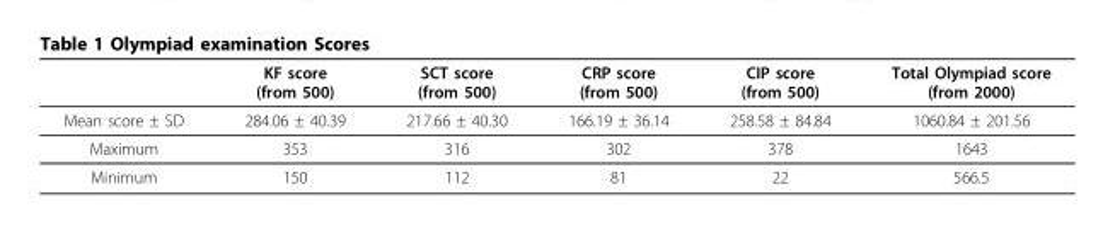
<table><thead><tr><td></td><td>KF score (from 500)</td><td>SCT score (from 500)</td><td>CRP score (from 500)</td><td>CIP score (from 500)</td><td>Total Olympiad score (from 2000)</td></tr></thead><tbody><tr><td>Mean score ± SD</td><td>284.06 ± 40.39</td><td>217.66 ± 40.30</td><td>166.19 ± 36.14</td><td>258.58 ± 84.84</td><td>1060.84 ± 201.56</td></tr><tr><td>Maximum</td><td>353</td><td>316</td><td>302</td><td>378</td><td>1643</td></tr><tr><td>Minimum</td><td>150</td><td>112</td><td>81</td><td>22</td><td>566.5</td></tr></tbody></table>